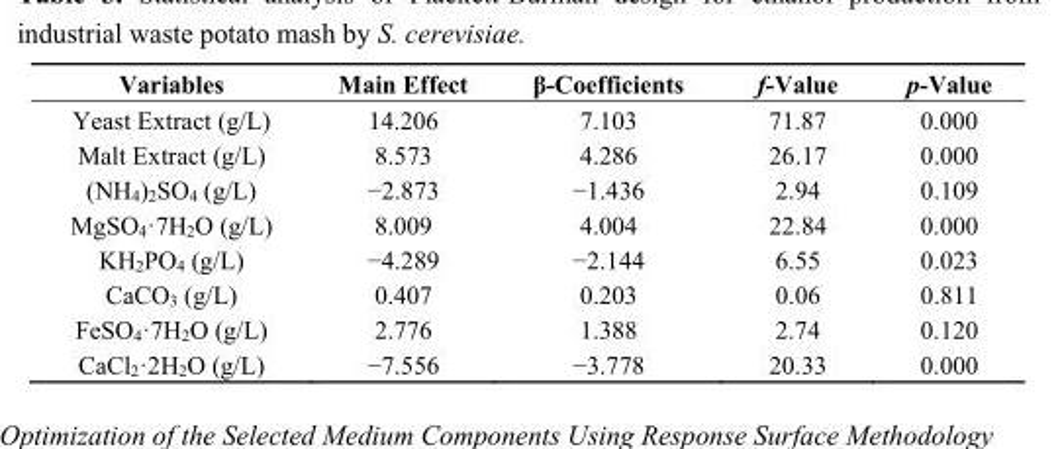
<table><thead><tr><td>Variables</td><td>Main Effect</td><td>β-Coefficients</td><td>f-Value</td><td>p-Value</td></tr></thead><tbody><tr><td>Yeast Extract (g/L)</td><td>14.206</td><td>7.103</td><td>71.87</td><td>0.000</td></tr><tr><td>Malt Extract (g/L)</td><td>8.573</td><td>4.286</td><td>26.17</td><td>0.000</td></tr><tr><td>(NH<sub>4</sub>)<sub>2</sub>SO<sub>4</sub> (g/L)</td><td>−2.873</td><td>−1.436</td><td>2.94</td><td>0.109</td></tr><tr><td>MgSO<sub>4</sub>·7H<sub>2</sub>O (g/L)</td><td>8.009</td><td>4.004</td><td>22.84</td><td>0.000</td></tr><tr><td>KH<sub>2</sub>PO<sub>4</sub> (g/L)</td><td>−4.289</td><td>−2.144</td><td>6.55</td><td>0.023</td></tr><tr><td>CaCO<sub>3</sub> (g/L)</td><td>0.407</td><td>0.203</td><td>0.06</td><td>0.811</td></tr><tr><td>FeSO<sub>4</sub>·7H<sub>2</sub>O (g/L)</td><td>2.776</td><td>1.388</td><td>2.74</td><td>0.120</td></tr><tr><td>CaCl<sub>2</sub>·2H<sub>2</sub>O (g/L)</td><td>−7.556</td><td>−3.778</td><td>20.33</td><td>0.000</td></tr></tbody></table>